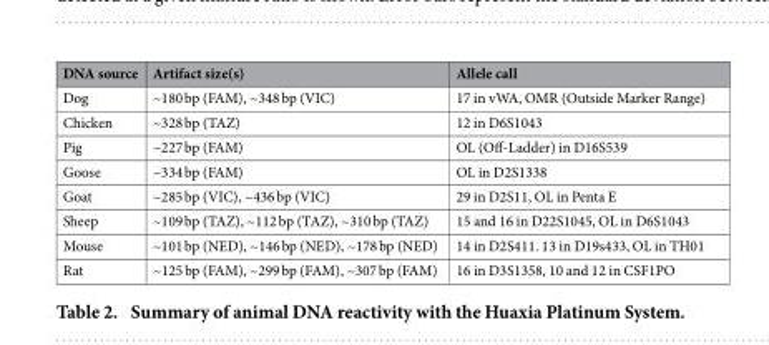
<table><thead><tr><td>DNA source</td><td>Artifact size(s)</td><td>Allele call</td></tr></thead><tbody><tr><td>Dog</td><td>~180 bp (FAM), ~348 bp (VIC)</td><td>17 in vWA, OMR (Outside Marker Range)</td></tr><tr><td>Chicken</td><td>~328 bp (TAZ)</td><td>12 in D6S1043</td></tr><tr><td>Pig</td><td>~227 bp (FAM)</td><td>OL (Off-Ladder) in D16S539</td></tr><tr><td>Goose</td><td>~334 bp (FAM)</td><td>OL in D2S1338</td></tr><tr><td>Goat</td><td>~285 bp (VIC), ~436 bp (VIC)</td><td>29 in D2S11, OL in Penta E</td></tr><tr><td>Sheep</td><td>~109 bp (TAZ), ~112 bp (TAZ), ~310 bp (TAZ)</td><td>15 and 16 in D22S1045, OL in D6S1043</td></tr><tr><td>Mouse</td><td>~101 bp (NED), ~146 bp (NED), ~178 bp (NED)</td><td>14 in D2S411. 13 in D19s433, OL in TH01</td></tr><tr><td>Rat</td><td>~125 bp (FAM), ~299 bp (FAM), ~307 bp (FAM)</td><td>16 in D3S1358, 10 and 12 in CSF1PO</td></tr></tbody></table>